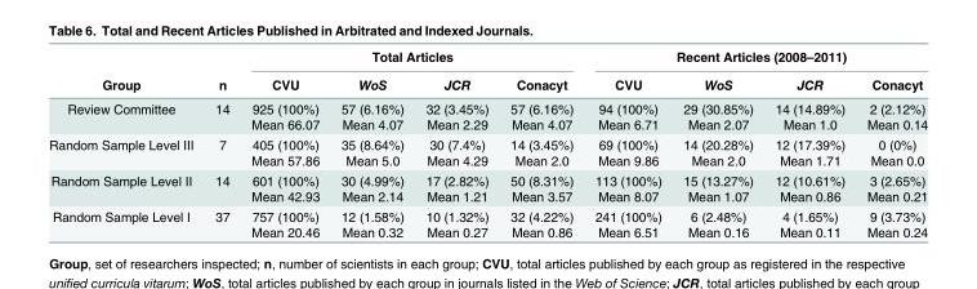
<table><thead><tr><td rowspan="2">Group</td><td rowspan="2">n</td><td colspan="4">Total Articles</td><td colspan="4">Recent Articles (2008–2011)</td></tr><tr><td>CVU</td><td>WoS</td><td>JCR</td><td>Conacyt</td><td>CVU</td><td>WoS</td><td>JCR</td><td>Conacyt</td></tr></thead><tbody><tr><td>Review Committee</td><td>14</td><td>925 (100%) Mean 66.07</td><td>57 (6.16%) Mean 4.07</td><td>32 (3.45%) Mean 2.29</td><td>57 (6.16%) Mean 4.07</td><td>94 (100%) Mean 6.71</td><td>29 (30.85%) Mean 2.07</td><td>14 (14.89%) Mean 1.0</td><td>2 (2.12%) Mean 0.14</td></tr><tr><td>Random Sample Level III</td><td>7</td><td>405 (100%) Mean 57.86</td><td>35 (8.64%) Mean 5.0</td><td>30 (7.4%) Mean 4.29</td><td>14 (3.45%) Mean 2.0</td><td>69 (100%) Mean 9.86</td><td>14 (20.28%) Mean 2.0</td><td>12 (17.39%) Mean 1.71</td><td>0 (0%) Mean 0.0</td></tr><tr><td>Random Sample Level II</td><td>14</td><td>601 (100%) Mean 42.93</td><td>30 (4.99%) Mean 2.14</td><td>17 (2.82%) Mean 1.21</td><td>50 (8.31%) Mean 3.57</td><td>113 (100%) Mean 8.07</td><td>15 (13.27%) Mean 1.07</td><td>12 (10.61%) Mean 0.86</td><td>3 (2.65%) Mean 0.21</td></tr><tr><td>Random Sample Level I</td><td>37</td><td>757 (100%) Mean 20.46</td><td>12 (1.58%) Mean 0.32</td><td>10 (1.32%) Mean 0.27</td><td>32 (4.22%) Mean 0.86</td><td>241 (100%) Mean 6.51</td><td>6 (2.48%) Mean 0.16</td><td>4 (1.65%) Mean 0.11</td><td>9 (3.73%) Mean 0.24</td></tr></tbody></table>